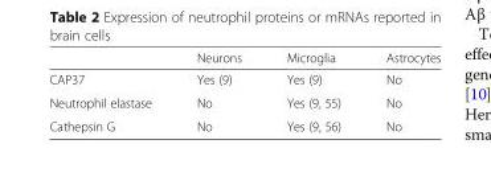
<table><thead><tr><td></td><td>Neurons</td><td>Microglia</td><td>Astrocytes</td></tr></thead><tbody><tr><td>CAP37</td><td>Yes (9)</td><td>Yes (9)</td><td>No</td></tr><tr><td>Neutrophil elastase</td><td>No</td><td>Yes (9, 55)</td><td>No</td></tr><tr><td>Cathepsin G</td><td>No</td><td>Yes (9, 56)</td><td>No</td></tr></tbody></table>